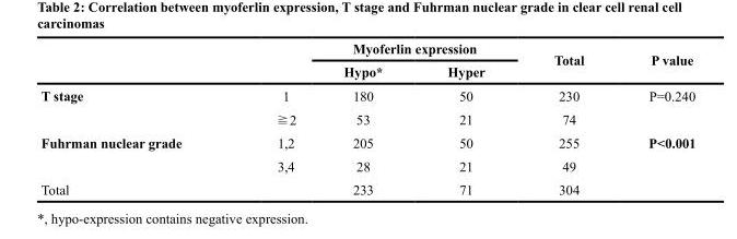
<table><thead><tr><td rowspan="2"></td><td rowspan="2"></td><td colspan="2">Myoferlin expression</td><td rowspan="2">Total</td><td rowspan="2">P value</td></tr><tr><td>Hypo*</td><td>Hyper</td></tr></thead><tbody><tr><td rowspan="2">T stage</td><td>1</td><td>180</td><td>50</td><td>230</td><td>P=0.240</td></tr><tr><td>≧2</td><td>53</td><td>21</td><td>74</td><td></td></tr><tr><td rowspan="2">Fuhrman nuclear grade</td><td>1,2</td><td>205</td><td>50</td><td>255</td><td>P&lt;0.001</td></tr><tr><td>3,4</td><td>28</td><td>21</td><td>49</td><td></td></tr><tr><td>Total</td><td></td><td>233</td><td>71</td><td>304</td><td></td></tr></tbody></table>